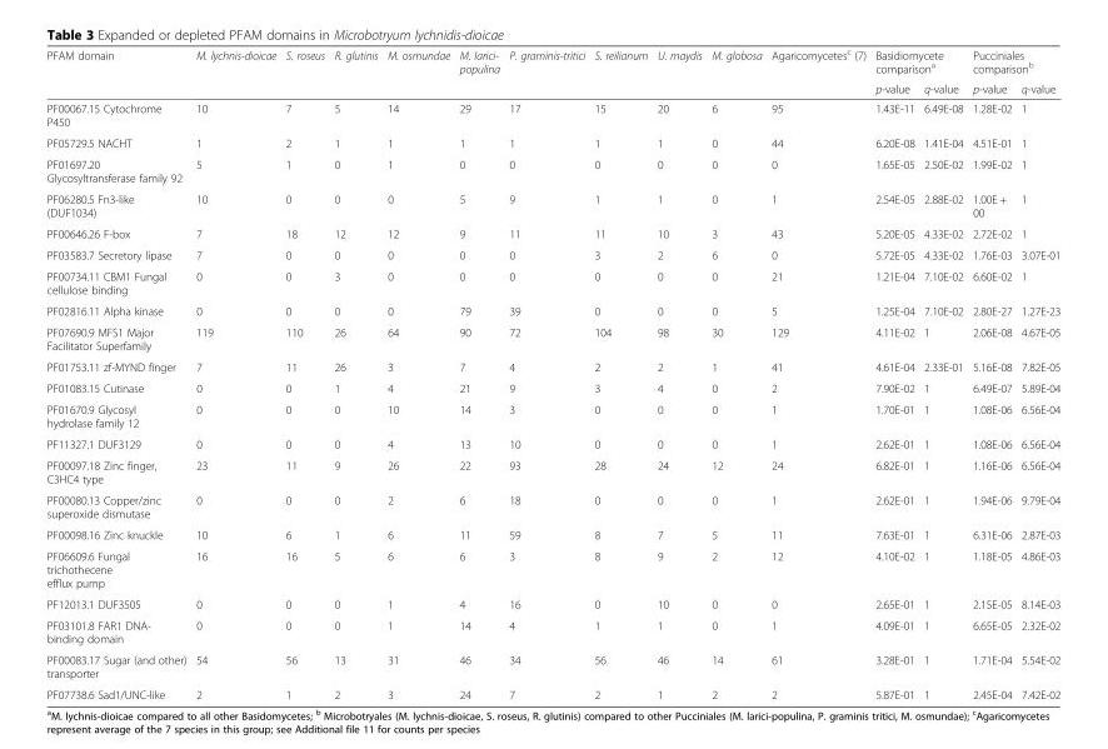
<table><thead><tr><td rowspan="2">PFAM domain</td><td rowspan="2">M. lychnis-dioicae</td><td rowspan="2">S. roseus</td><td rowspan="2">R. glutinis</td><td rowspan="2">M. osmundae</td><td rowspan="2">M. larici- populina</td><td rowspan="2">P. graminis-tritici</td><td rowspan="2">S. reilianum</td><td rowspan="2">U. maydis</td><td rowspan="2">M. globosa</td><td rowspan="2">Agaricomycetes<sup>c</sup> (7)</td><td colspan="2">Basidiomycete comparison<sup>a</sup></td><td colspan="2">Pucciniales comparison<sup>b</sup></td></tr><tr><td>p-value</td><td>q-value</td><td>p-value</td><td>q-value</td></tr></thead><tbody><tr><td>PF00067.15 Cytochrome P450</td><td>10</td><td>7</td><td>5</td><td>14</td><td>29</td><td>17</td><td>15</td><td>20</td><td>6</td><td>95</td><td>1.43E-11</td><td>6.49E-08</td><td>1.28E-02</td><td>1</td></tr><tr><td>PF05729.5 NACHT</td><td>1</td><td>2</td><td>1</td><td>1</td><td>1</td><td>1</td><td>1</td><td>1</td><td>0</td><td>44</td><td>6.20E-08</td><td>1.41E-04</td><td>4.51E-01</td><td>1</td></tr><tr><td>PF01697.20 Glycosyltransferase family 92</td><td>5</td><td>1</td><td>0</td><td>1</td><td>0</td><td>0</td><td>0</td><td>0</td><td>0</td><td>0</td><td>1.65E-05</td><td>2.50E-02</td><td>1.99E-02</td><td>1</td></tr><tr><td>PF06280.5 Fn3-like (DUF1034)</td><td>10</td><td>0</td><td>0</td><td>0</td><td>5</td><td>9</td><td>1</td><td>1</td><td>0</td><td>1</td><td>2.54E-05</td><td>2.88E-02</td><td>1.00E + 00</td><td>1</td></tr><tr><td>PF00646.26 F-box</td><td>7</td><td>18</td><td>12</td><td>12</td><td>9</td><td>11</td><td>11</td><td>10</td><td>3</td><td>43</td><td>5.20E-05</td><td>4.33E-02</td><td>2.72E-02</td><td>1</td></tr><tr><td>PF03583.7 Secretory lipase</td><td>7</td><td>0</td><td>0</td><td>0</td><td>0</td><td>0</td><td>3</td><td>2</td><td>6</td><td>0</td><td>5.72E-05</td><td>4.33E-02</td><td>1.76E-03</td><td>3.07E-01</td></tr><tr><td>PF00734.11 CBM1 Fungal cellulose binding</td><td>0</td><td>0</td><td>3</td><td>0</td><td>0</td><td>0</td><td>0</td><td>0</td><td>0</td><td>21</td><td>1.21E-04</td><td>7.10E-02</td><td>6.60E-02</td><td>1</td></tr><tr><td>PF02816.11 Alpha kinase</td><td>0</td><td>0</td><td>0</td><td>0</td><td>79</td><td>39</td><td>0</td><td>0</td><td>0</td><td>5</td><td>1.25E-04</td><td>7.10E-02</td><td>2.80E-27</td><td>1.27E-23</td></tr><tr><td>PF07690.9 MFS1 Major Facilitator Superfamily</td><td>119</td><td>110</td><td>26</td><td>64</td><td>90</td><td>72</td><td>104</td><td>98</td><td>30</td><td>129</td><td>4.11E-02</td><td>1</td><td>2.06E-08</td><td>4.67E-05</td></tr><tr><td>PF01753.11 zf-MYND finger</td><td>7</td><td>11</td><td>26</td><td>3</td><td>7</td><td>4</td><td>2</td><td>2</td><td>1</td><td>41</td><td>4.61E-04</td><td>2.33E-01</td><td>5.16E-08</td><td>7.82E-05</td></tr><tr><td>PF01083.15 Cutinase</td><td>0</td><td>0</td><td>1</td><td>4</td><td>21</td><td>9</td><td>3</td><td>4</td><td>0</td><td>2</td><td>7.90E-02</td><td>1</td><td>6.49E-07</td><td>5.89E-04</td></tr><tr><td>PF01670.9 Glycosyl hydrolase family 12</td><td>0</td><td>0</td><td>0</td><td>10</td><td>14</td><td>3</td><td>0</td><td>0</td><td>0</td><td>1</td><td>1.70E-01</td><td>1</td><td>1.08E-06</td><td>6.56E-04</td></tr><tr><td>PF11327.1 DUF3129</td><td>0</td><td>0</td><td>0</td><td>4</td><td>13</td><td>10</td><td>0</td><td>0</td><td>0</td><td>1</td><td>2.62E-01</td><td>1</td><td>1.08E-06</td><td>6.56E-04</td></tr><tr><td>PF00097.18 Zinc finger, C3HC4 type</td><td>23</td><td>11</td><td>9</td><td>26</td><td>22</td><td>93</td><td>28</td><td>24</td><td>12</td><td>24</td><td>6.82E-01</td><td>1</td><td>1.16E-06</td><td>6.56E-04</td></tr><tr><td>PF00080.13 Copper/zinc superoxide dismutase</td><td>0</td><td>0</td><td>0</td><td>2</td><td>6</td><td>18</td><td>0</td><td>0</td><td>0</td><td>1</td><td>2.62E-01</td><td>1</td><td>1.94E-06</td><td>9.79E-04</td></tr><tr><td>PF00098.16 Zinc knuckle</td><td>10</td><td>6</td><td>1</td><td>6</td><td>11</td><td>59</td><td>8</td><td>7</td><td>5</td><td>11</td><td>7.63E-01</td><td>1</td><td>6.31E-06</td><td>2.87E-03</td></tr><tr><td>PF06609.6 Fungal trichothecene efflux pump</td><td>16</td><td>16</td><td>5</td><td>6</td><td>6</td><td>3</td><td>8</td><td>9</td><td>2</td><td>12</td><td>4.10E-02</td><td>1</td><td>1.18E-05</td><td>4.86E-03</td></tr><tr><td>PF12013.1 DUF3505</td><td>0</td><td>0</td><td>0</td><td>1</td><td>4</td><td>16</td><td>0</td><td>10</td><td>0</td><td>0</td><td>2.65E-01</td><td>1</td><td>2.15E-05</td><td>8.14E-03</td></tr><tr><td>PF03101.8 FAR1 DNA- binding domain</td><td>0</td><td>0</td><td>0</td><td>1</td><td>14</td><td>4</td><td>1</td><td>1</td><td>0</td><td>1</td><td>4.09E-01</td><td>1</td><td>6.65E-05</td><td>2.32E-02</td></tr><tr><td>PF00083.17 Sugar (and other) transporter</td><td>54</td><td>56</td><td>13</td><td>31</td><td>46</td><td>34</td><td>56</td><td>46</td><td>14</td><td>61</td><td>3.28E-01</td><td>1</td><td>1.71E-04</td><td>5.54E-02</td></tr><tr><td>PF07738.6 Sad1/UNC-like</td><td>2</td><td>1</td><td>2</td><td>3</td><td>24</td><td>7</td><td>2</td><td>1</td><td>2</td><td>2</td><td>5.87E-01</td><td>1</td><td>2.45E-04</td><td>7.42E-02</td></tr></tbody></table>